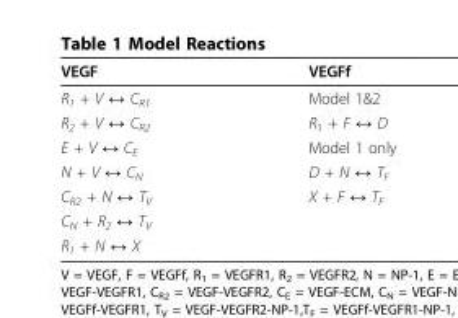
<table><thead><tr><td>VEGF</td><td>VEGFf</td></tr></thead><tbody><tr><td>R<sub>1</sub> + V ↔ C<sub>R1</sub></td><td>Model 1&amp;2</td></tr><tr><td>R<sub>2</sub> + V ↔ C<sub>R2</sub></td><td>R<sub>1</sub> + F ↔ D</td></tr><tr><td>E + V ↔ C<sub>E</sub></td><td>Model 1 only</td></tr><tr><td>N + V ↔ C<sub>N</sub></td><td>D + N ↔ T<sub>F</sub></td></tr><tr><td>C<sub>R2</sub> + N ↔ T<sub>V</sub></td><td>X + F ↔ T<sub>F</sub></td></tr><tr><td colspan="2">C<sub>N</sub> + R<sub>2</sub> ↔ T<sub>V</sub></td></tr><tr><td>R<sub>1</sub> + N ↔ X</td><td></td></tr></tbody></table>